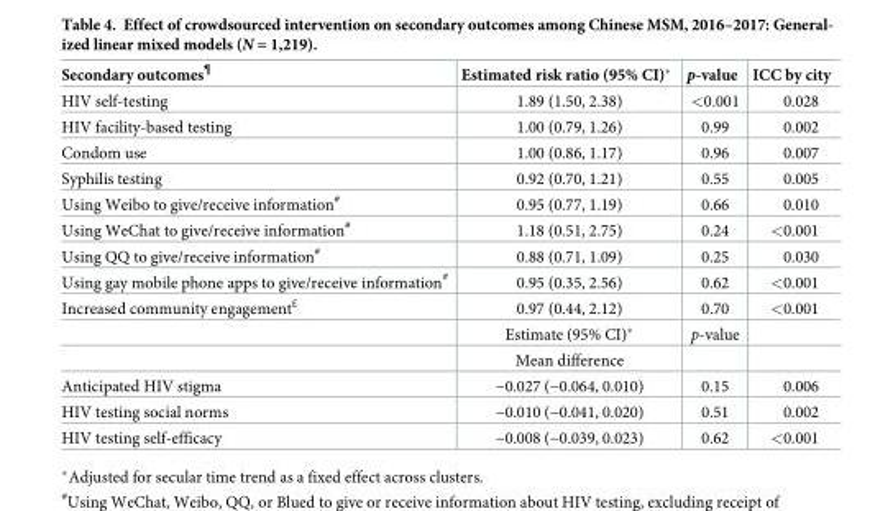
<table><thead><tr><td>Secondary outcomes<sup>¶</sup></td><td>Estimated risk ratio (95% CI)*</td><td>p-value</td><td>ICC by city</td></tr></thead><tbody><tr><td>HIV self-testing</td><td>1.89 (1.50, 2.38)</td><td>&lt;0.001</td><td>0.028</td></tr><tr><td>HIV facility-based testing</td><td>1.00 (0.79, 1.26)</td><td>0.99</td><td>0.002</td></tr><tr><td>Condom use</td><td>1.00 (0.86, 1.17)</td><td>0.96</td><td>0.007</td></tr><tr><td>Syphilis testing</td><td>0.92 (0.70, 1.21)</td><td>0.55</td><td>0.005</td></tr><tr><td>Using Weibo to give/receive information<sup>#</sup></td><td>0.95 (0.77, 1.19)</td><td>0.66</td><td>0.010</td></tr><tr><td>Using WeChat to give/receive information<sup>#</sup></td><td>1.18 (0.51, 2.75)</td><td>0.24</td><td>&lt;0.001</td></tr><tr><td>Using QQ to give/receive information<sup>#</sup></td><td>0.88 (0.71, 1.09)</td><td>0.25</td><td>0.030</td></tr><tr><td>Using gay mobile phone apps to give/receive information<sup>#</sup></td><td>0.95 (0.35, 2.56)</td><td>0.62</td><td>&lt;0.001</td></tr><tr><td rowspan="3">Increased community engagement<sup>£</sup></td><td>0.97 (0.44, 2.12)</td><td>0.70</td><td>&lt;0.001</td></tr><tr><td>Estimate (95% CI)*</td><td>p-value</td><td></td></tr><tr><td>Mean difference</td><td></td><td></td></tr><tr><td>Anticipated HIV stigma</td><td>−0.027 (−0.064, 0.010)</td><td>0.15</td><td>0.006</td></tr><tr><td>HIV testing social norms</td><td>−0.010 (−0.041, 0.020)</td><td>0.51</td><td>0.002</td></tr><tr><td>HIV testing self-efficacy</td><td>−0.008 (−0.039, 0.023)</td><td>0.62</td><td>&lt;0.001</td></tr></tbody></table>